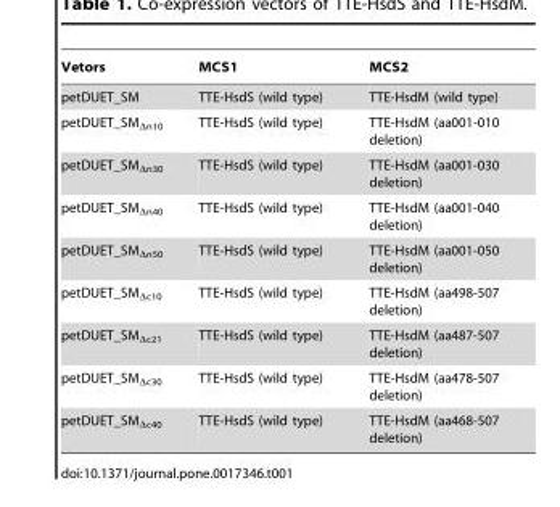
<table><thead><tr><td>Vetors</td><td>MCS1</td><td>MCS2</td></tr></thead><tbody><tr><td>petDUET_SM</td><td>TTE-HsdS (wild type)</td><td>TTE-HsdM (wild type)</td></tr><tr><td>petDUET_SM<sub>Δn10</sub></td><td>TTE-HsdS (wild type)</td><td>TTE-HsdM (aa001-010 deletion)</td></tr><tr><td>petDUET_SM<sub>Δn30</sub></td><td>TTE-HsdS (wild type)</td><td>TTE-HsdM (aa001-030 deletion)</td></tr><tr><td>petDUET_SM<sub>Δn40</sub></td><td>TTE-HsdS (wild type)</td><td>TTE-HsdM (aa001-040 deletion)</td></tr><tr><td>petDUET_SM<sub>Δn50</sub></td><td>TTE-HsdS (wild type)</td><td>TTE-HsdM (aa001-050 deletion)</td></tr><tr><td>petDUET_SM<sub>Δc10</sub></td><td>TTE-HsdS (wild type)</td><td>TTE-HsdM (aa498-507 deletion)</td></tr><tr><td>petDUET_SM<sub>Δc21</sub></td><td>TTE-HsdS (wild type)</td><td>TTE-HsdM (aa487-507 deletion)</td></tr><tr><td>petDUET_SM<sub>Δc30</sub></td><td>TTE-HsdS (wild type)</td><td>TTE-HsdM (aa478-507 deletion)</td></tr><tr><td>petDUET_SM<sub>Δc40</sub></td><td>TTE-HsdS (wild type)</td><td>TTE-HsdM (aa468-507 deletion)</td></tr></tbody></table>